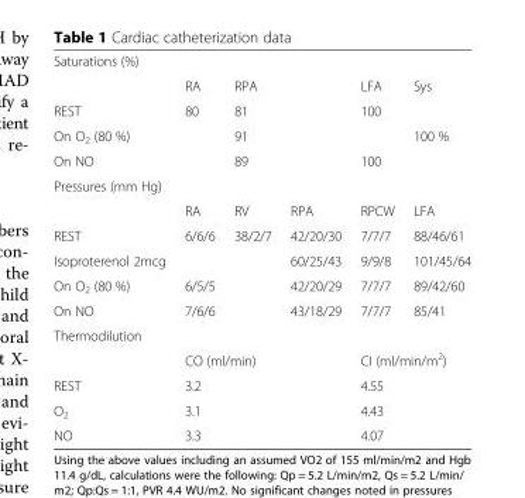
<table><tbody><tr><td colspan="6">Saturations (%)</td></tr><tr><td></td><td>RA</td><td colspan="2">RPA</td><td>LFA</td><td>Sys</td></tr><tr><td>REST</td><td>80</td><td colspan="2">81</td><td>100</td><td></td></tr><tr><td>On O<sub>2</sub> (80 %)</td><td></td><td colspan="2">91</td><td></td><td>100 %</td></tr><tr><td>On NO</td><td></td><td colspan="2">89</td><td>100</td><td></td></tr><tr><td colspan="6">Pressures (mm Hg)</td></tr><tr><td></td><td>RA</td><td>RV</td><td>RPA</td><td>RPCW</td><td>LFA</td></tr><tr><td>REST</td><td>6/6/6</td><td>38/2/7</td><td>42/20/30</td><td>7/7/7</td><td>88/46/61</td></tr><tr><td>Isoproterenol 2mcg</td><td></td><td></td><td>60/25/43</td><td>9/9/8</td><td>101/45/64</td></tr><tr><td>On O<sub>2</sub> (80 %)</td><td>6/5/5</td><td></td><td>42/20/29</td><td>7/7/7</td><td>89/42/60</td></tr><tr><td>On NO</td><td>7/6/6</td><td></td><td>43/18/29</td><td>7/7/7</td><td>85/41</td></tr><tr><td colspan="6">Thermodilution</td></tr><tr><td></td><td colspan="3">CO (ml/min)</td><td colspan="2">CI (ml/min/m<sup>2</sup>)</td></tr><tr><td>REST</td><td colspan="3">3.2</td><td colspan="2">4.55</td></tr><tr><td>O<sub>2</sub></td><td colspan="3">3.1</td><td colspan="2">4.43</td></tr><tr><td>NO</td><td colspan="3">3.3</td><td colspan="2">4.07</td></tr></tbody></table>